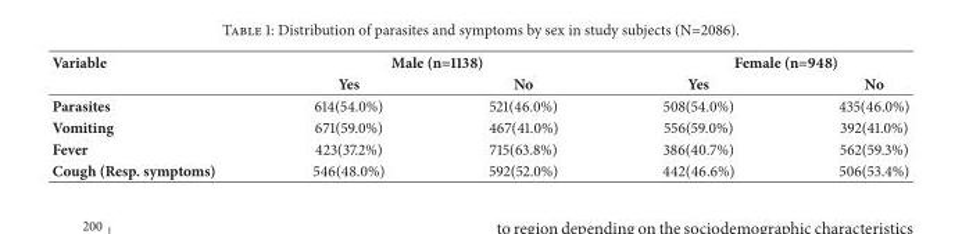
<table><thead><tr><td rowspan="2">Variable</td><td colspan="2">Male (n=1138)</td><td colspan="2">Female (n=948)</td></tr><tr><td>Yes</td><td>No</td><td>Yes</td><td>No</td></tr></thead><tbody><tr><td>Parasites</td><td>614(54.0%)</td><td>521(46.0%)</td><td>508(54.0%)</td><td>435(46.0%)</td></tr><tr><td>Vomiting</td><td>671(59.0%)</td><td>467(41.0%)</td><td>556(59.0%)</td><td>392(41.0%)</td></tr><tr><td>Fever</td><td>423(37.2%)</td><td>715(63.8%)</td><td>386(40.7%)</td><td>562(59.3%)</td></tr><tr><td>Cough (Resp. symptoms)</td><td>546(48.0%)</td><td>592(52.0%)</td><td>442(46.6%)</td><td>506(53.4%)</td></tr></tbody></table>